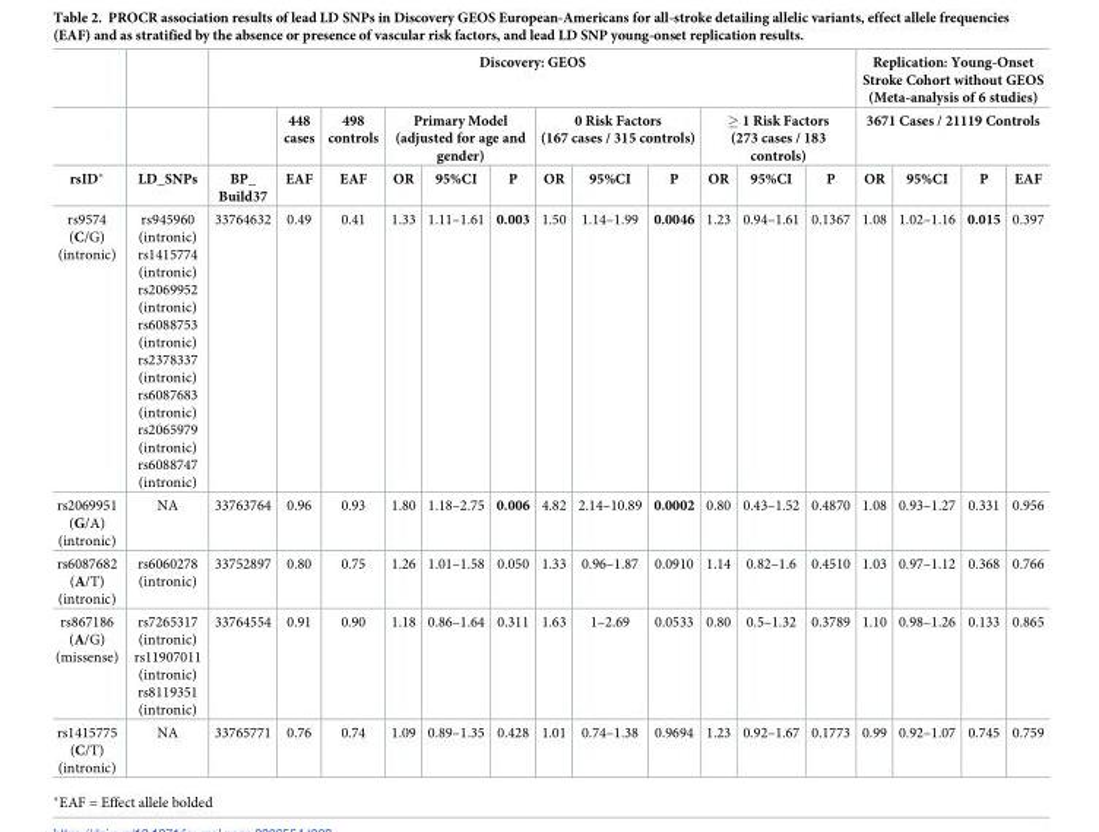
<table><thead><tr><td rowspan="3">rsID*</td><td rowspan="3">LD_SNPs</td><td colspan="12">Discovery: GEOS</td><td rowspan="2" colspan="4">Replication: Young-Onset Stroke Cohort without GEOS (Meta-analysis of 6 studies) 3671 Cases / 21119 Controls</td></tr><tr><td rowspan="2">BP_ Build37</td><td rowspan="2">448 cases EAF</td><td rowspan="2">498 controls EAF</td><td colspan="3">Primary Model (adjusted for age and gender)</td><td colspan="3">0 Risk Factors (167 cases / 315 controls)</td><td colspan="3">≥ 1 Risk Factors (273 cases / 183 controls)</td></tr><tr><td>OR</td><td>95%CI</td><td>P</td><td>OR</td><td>95%CI</td><td>P</td><td>OR</td><td>95%CI</td><td>P</td><td>OR</td><td>95%CI</td><td>P</td><td>EAF</td></tr></thead><tbody><tr><td>rs9574 (C/G) (intronic)</td><td>rs945960 (intronic) rs1415774 (intronic) rs2069952 (intronic) rs6088753 (intronic) rs2378337 (intronic) rs6087683 (intronic) rs2065979 (intronic) rs6088747 (intronic)</td><td>33764632</td><td>0.49</td><td>0.41</td><td>1.33</td><td>1.11–1.61</td><td>0.003</td><td>1.50</td><td>1.14–1.99</td><td>0.0046</td><td>1.23</td><td>0.94–1.61</td><td>0.1367</td><td>1.08</td><td>1.02–1.16</td><td>0.015</td><td>0.397</td></tr><tr><td>rs2069951 (G/A) (intronic)</td><td>NA</td><td>33763764</td><td>0.96</td><td>0.93</td><td>1.80</td><td>1.18–2.75</td><td>0.006</td><td>4.82</td><td>2.14–10.89</td><td>0.0002</td><td>0.80</td><td>0.43–1.52</td><td>0.4870</td><td>1.08</td><td>0.93–1.27</td><td>0.331</td><td>0.956</td></tr><tr><td>rs6087682 (A/T) (intronic)</td><td>rs6060278 (intronic)</td><td>33752897</td><td>0.80</td><td>0.75</td><td>1.26</td><td>1.01–1.58</td><td>0.050</td><td>1.33</td><td>0.96–1.87</td><td>0.0910</td><td>1.14</td><td>0.82–1.6</td><td>0.4510</td><td>1.03</td><td>0.97–1.12</td><td>0.368</td><td>0.766</td></tr><tr><td>rs867186 (A/G) (missense)</td><td>rs7265317 (intronic) rs11907011 (intronic) rs8119351 (intronic)</td><td>33764554</td><td>0.91</td><td>0.90</td><td>1.18</td><td>0.86–1.64</td><td>0.311</td><td>1.63</td><td>1–2.69</td><td>0.0533</td><td>0.80</td><td>0.5–1.32</td><td>0.3789</td><td>1.10</td><td>0.98–1.26</td><td>0.133</td><td>0.865</td></tr><tr><td>rs1415775 (C/T) (intronic)</td><td>NA</td><td>33765771</td><td>0.76</td><td>0.74</td><td>1.09</td><td>0.89–1.35</td><td>0.428</td><td>1.01</td><td>0.74–1.38</td><td>0.9694</td><td>1.23</td><td>0.92–1.67</td><td>0.1773</td><td>0.99</td><td>0.92–1.07</td><td>0.745</td><td>0.759</td></tr></tbody></table>